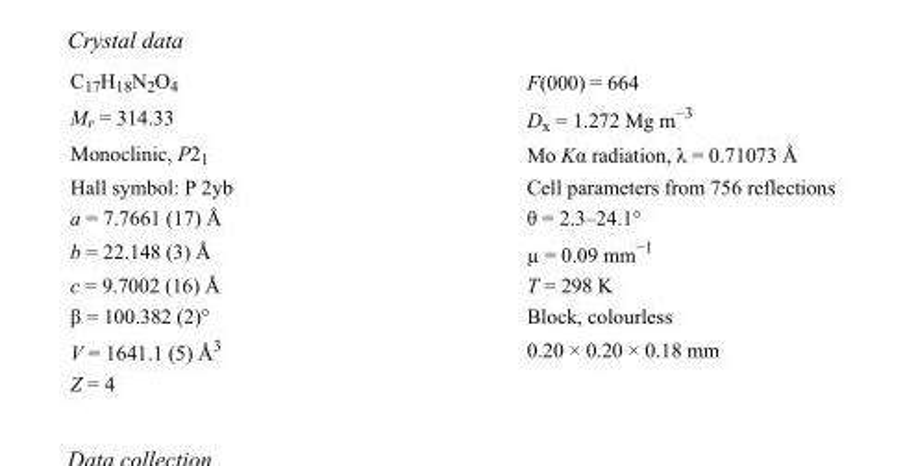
<table><tbody><tr><td>C<sub>17</sub>H<sub>18</sub>N<sub>2</sub>O<sub>4</sub></td><td>F(000) = 664</td></tr><tr><td>M<sub>r</sub> = 314.33</td><td>D<sub>x</sub> = 1.272 Mg m<sup>−3</sup></td></tr><tr><td>Monoclinic, P2<sub>1</sub></td><td>Mo Kα radiation, λ = 0.71073 Å</td></tr><tr><td>Hall symbol: P 2yb</td><td>Cell parameters from 756 reflections</td></tr><tr><td>a = 7.7661 (17) Å</td><td>θ = 2.3–24.1°</td></tr><tr><td>b = 22.148 (3) Å</td><td>µ = 0.09 mm<sup>−1</sup></td></tr><tr><td>c = 9.7002 (16) Å</td><td>T = 298 K</td></tr><tr><td>β = 100.382 (2)°</td><td>Block, colourless</td></tr><tr><td>V = 1641.1 (5) Å<sup>3</sup></td><td>0.20 × 0.20 × 0.18 mm</td></tr><tr><td>Z = 4</td><td></td></tr></tbody></table>